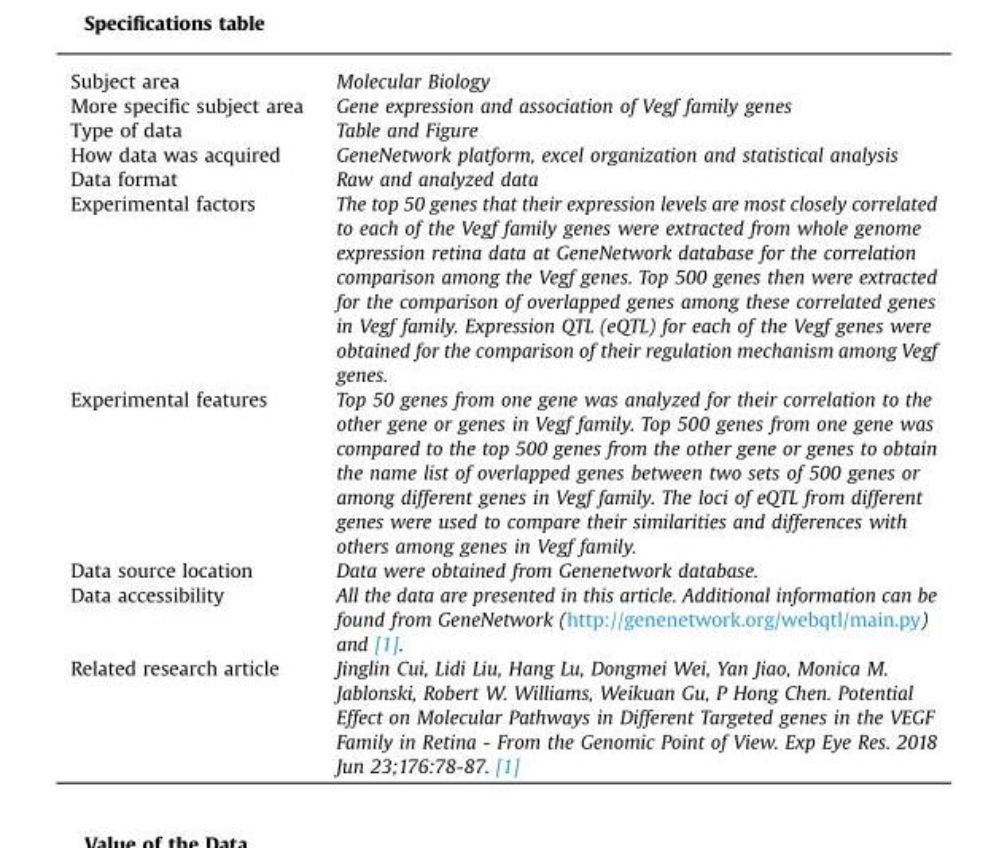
<table><tbody><tr><td>Subject area</td><td>Molecular Biology</td></tr><tr><td>More specific subject area</td><td>Gene expression and association of Vegf family genes</td></tr><tr><td>Type of data</td><td>Table and Figure</td></tr><tr><td>How data was acquired</td><td>GeneNetwork platform, excel organization and statistical analysis</td></tr><tr><td>Data format</td><td>Raw and analyzed data</td></tr><tr><td>Experimental factors</td><td>The top 50 genes that their expression levels are most closely correlated to each of the Vegf family genes were extracted from whole genome expression retina data at GeneNetwork database for the correlation comparison among the Vegf genes. Top 500 genes then were extracted for the comparison of overlapped genes among these correlated genes in Vegf family. Expression QTL (eQTL) for each of the Vegf genes were obtained for the comparison of their regulation mechanism among Vegf genes.</td></tr><tr><td>Experimental features</td><td>Top 50 genes from one gene was analyzed for their correlation to the other gene or genes in Vegf family. Top 500 genes from one gene was compared to the top 500 genes from the other gene or genes to obtain the name list of overlapped genes between two sets of 500 genes or among different genes in Vegf family. The loci of eQTL from different genes were used to compare their similarities and differences with others among genes in Vegf family.</td></tr><tr><td>Data source location</td><td>Data were obtained from Genenetwork database.</td></tr><tr><td>Data accessibility</td><td>All the data are presented in this article. Additional information can be found from GeneNetwork (http://genenetwork.org/webqtl/main.py) and [1].</td></tr><tr><td>Related research article</td><td>Jinglin Cui, Lidi Liu, Hang Lu, Dongmei Wei, Yan Jiao, Monica M. Jablonski, Robert W. Williams, Weikuan Gu, P Hong Chen. Potential Effect on Molecular Pathways in Different Targeted genes in the VEGF Family in Retina - From the Genomic Point of View. Exp Eye Res. 2018 Jun 23;176:78-87. [1]</td></tr></tbody></table>